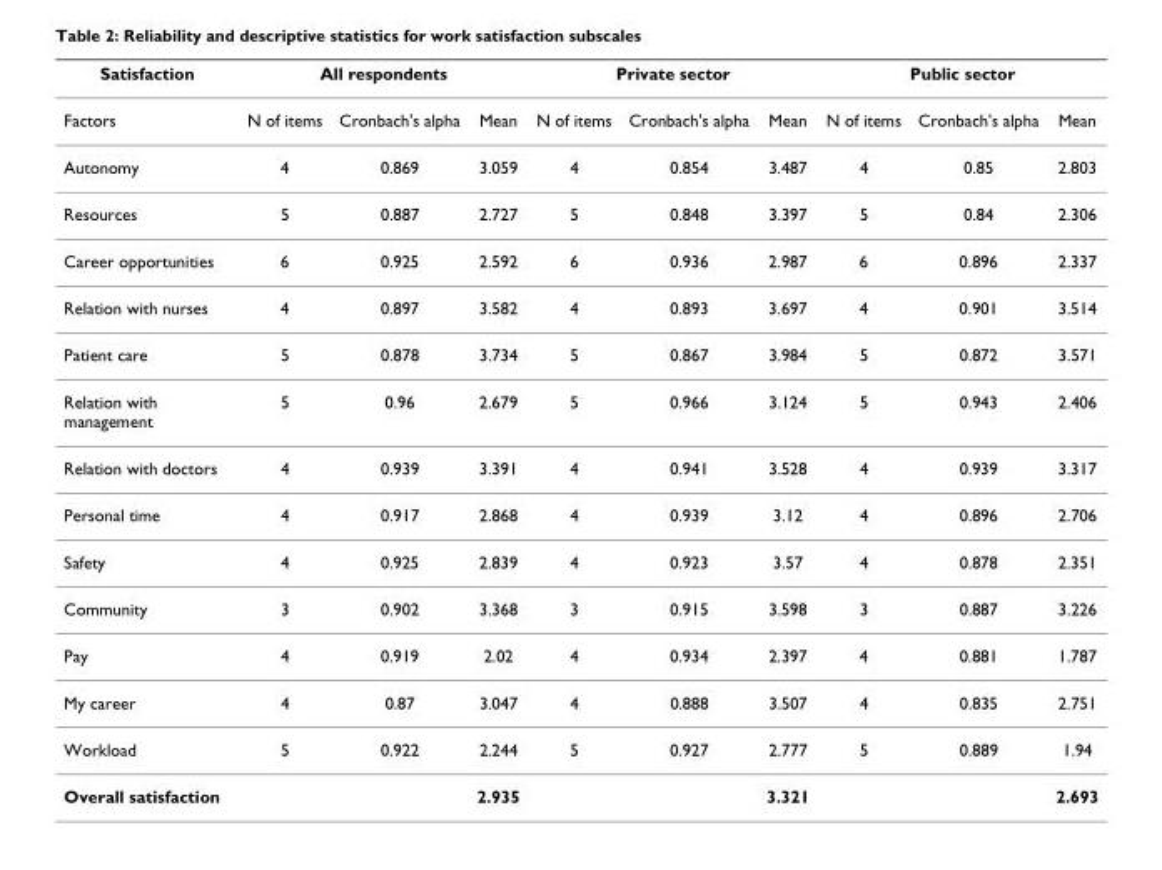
<table><thead><tr><td rowspan="2">Satisfaction Factors</td><td colspan="3">All respondents</td><td colspan="3">Private sector</td><td colspan="3">Public sector</td></tr><tr><td>N of items</td><td>Cronbach&#x27;s alpha</td><td>Mean</td><td>N of items</td><td>Cronbach&#x27;s alpha</td><td>Mean</td><td>N of items</td><td>Cronbach&#x27;s alpha</td><td>Mean</td></tr></thead><tbody><tr><td>Autonomy</td><td>4</td><td>0.869</td><td>3.059</td><td>4</td><td>0.854</td><td>3.487</td><td>4</td><td>0.85</td><td>2.803</td></tr><tr><td>Resources</td><td>5</td><td>0.887</td><td>2.727</td><td>5</td><td>0.848</td><td>3.397</td><td>5</td><td>0.84</td><td>2.306</td></tr><tr><td>Career opportunities</td><td>6</td><td>0.925</td><td>2.592</td><td>6</td><td>0.936</td><td>2.987</td><td>6</td><td>0.896</td><td>2.337</td></tr><tr><td>Relation with nurses</td><td>4</td><td>0.897</td><td>3.582</td><td>4</td><td>0.893</td><td>3.697</td><td>4</td><td>0.901</td><td>3.514</td></tr><tr><td>Patient care</td><td>5</td><td>0.878</td><td>3.734</td><td>5</td><td>0.867</td><td>3.984</td><td>5</td><td>0.872</td><td>3.571</td></tr><tr><td>Relation with management</td><td>5</td><td>0.96</td><td>2.679</td><td>5</td><td>0.966</td><td>3.124</td><td>5</td><td>0.943</td><td>2.406</td></tr><tr><td>Relation with doctors</td><td>4</td><td>0.939</td><td>3.391</td><td>4</td><td>0.941</td><td>3.528</td><td>4</td><td>0.939</td><td>3.317</td></tr><tr><td>Personal time</td><td>4</td><td>0.917</td><td>2.868</td><td>4</td><td>0.939</td><td>3.12</td><td>4</td><td>0.896</td><td>2.706</td></tr><tr><td>Safety</td><td>4</td><td>0.925</td><td>2.839</td><td>4</td><td>0.923</td><td>3.57</td><td>4</td><td>0.878</td><td>2.351</td></tr><tr><td>Community</td><td>3</td><td>0.902</td><td>3.368</td><td>3</td><td>0.915</td><td>3.598</td><td>3</td><td>0.887</td><td>3.226</td></tr><tr><td>Pay</td><td>4</td><td>0.919</td><td>2.02</td><td>4</td><td>0.934</td><td>2.397</td><td>4</td><td>0.881</td><td>1.787</td></tr><tr><td>My career</td><td>4</td><td>0.87</td><td>3.047</td><td>4</td><td>0.888</td><td>3.507</td><td>4</td><td>0.835</td><td>2.751</td></tr><tr><td>Workload</td><td>5</td><td>0.922</td><td>2.244</td><td>5</td><td>0.927</td><td>2.777</td><td>5</td><td>0.889</td><td>1.94</td></tr><tr><td>Overall satisfaction</td><td></td><td></td><td>2.935</td><td></td><td></td><td>3.321</td><td></td><td></td><td>2.693</td></tr></tbody></table>